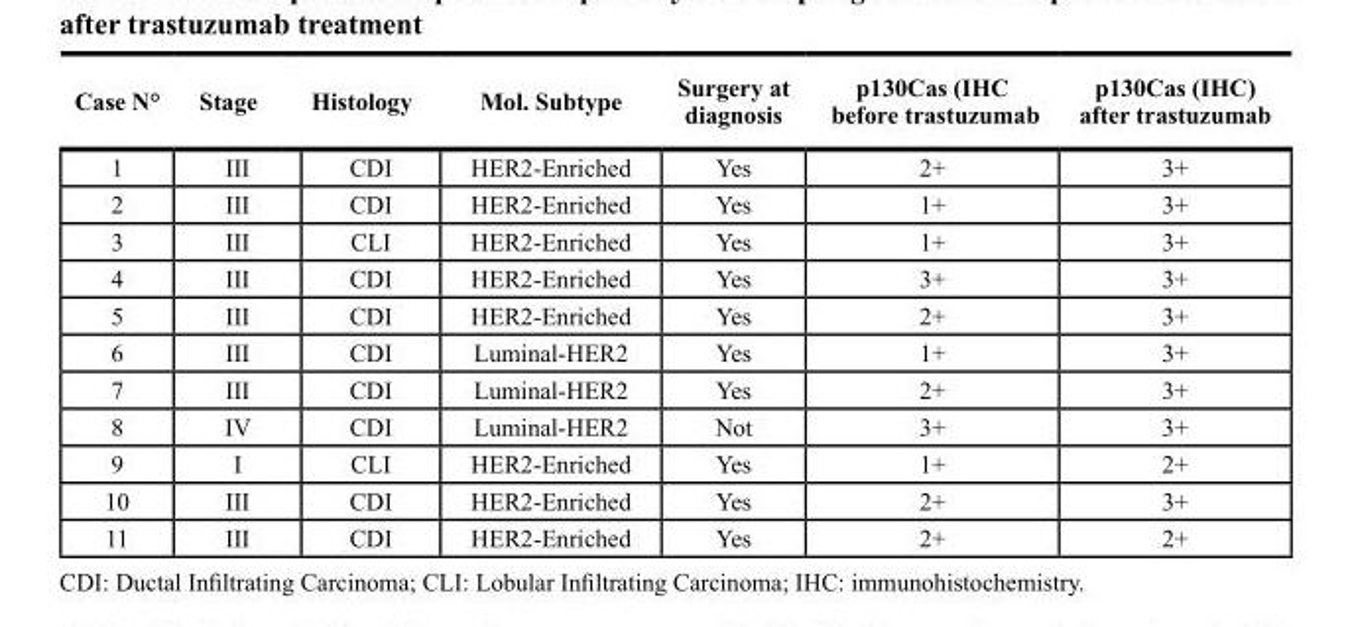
<table><thead><tr><td>Case N°</td><td>Stage</td><td>Histology</td><td>Mol. Subtype</td><td>Surgery at diagnosis</td><td>p130Cas (IHC before trastuzumab</td><td>p130Cas (IHC) after trastuzumab</td></tr></thead><tbody><tr><td>1</td><td>III</td><td>CDI</td><td>HER2-Enriched</td><td>Yes</td><td>2+</td><td>3+</td></tr><tr><td>2</td><td>III</td><td>CDI</td><td>HER2-Enriched</td><td>Yes</td><td>1+</td><td>3+</td></tr><tr><td>3</td><td>III</td><td>CLI</td><td>HER2-Enriched</td><td>Yes</td><td>1+</td><td>3+</td></tr><tr><td>4</td><td>III</td><td>CDI</td><td>HER2-Enriched</td><td>Yes</td><td>3+</td><td>3+</td></tr><tr><td>5</td><td>III</td><td>CDI</td><td>HER2-Enriched</td><td>Yes</td><td>2+</td><td>3+</td></tr><tr><td>6</td><td>III</td><td>CDI</td><td>Luminal-HER2</td><td>Yes</td><td>1+</td><td>3+</td></tr><tr><td>7</td><td>III</td><td>CDI</td><td>Luminal-HER2</td><td>Yes</td><td>2+</td><td>3+</td></tr><tr><td>8</td><td>IV</td><td>CDI</td><td>Luminal-HER2</td><td>Not</td><td>3+</td><td>3+</td></tr><tr><td>9</td><td>I</td><td>CLI</td><td>HER2-Enriched</td><td>Yes</td><td>1+</td><td>2+</td></tr><tr><td>10</td><td>III</td><td>CDI</td><td>HER2-Enriched</td><td>Yes</td><td>2+</td><td>3+</td></tr><tr><td>11</td><td>III</td><td>CDI</td><td>HER2-Enriched</td><td>Yes</td><td>2+</td><td>2+</td></tr></tbody></table>